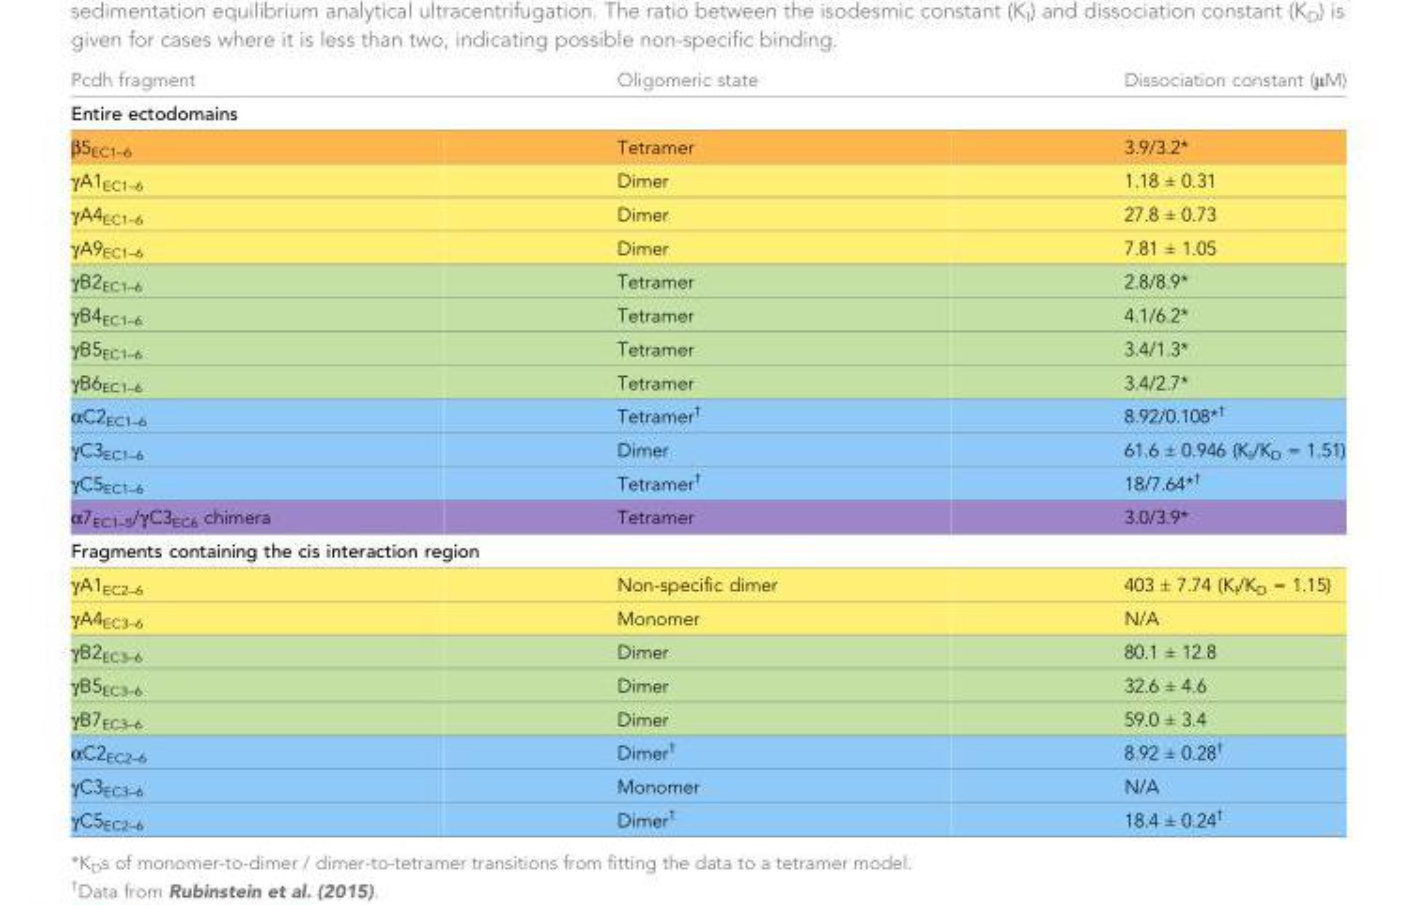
<table><thead><tr><td>Pcdh fragment</td><td>Oligomeric state</td><td>Dissociation constant (μM)</td></tr></thead><tbody><tr><td colspan="3">Entire ectodomains</td></tr><tr><td>β5<sub>EC1–6</sub></td><td>Tetramer</td><td>3.9/3.2*</td></tr><tr><td>γA1<sub>EC1–6</sub></td><td>Dimer</td><td>1.18 ± 0.31</td></tr><tr><td>γA4<sub>EC1–6</sub></td><td>Dimer</td><td>27.8 ± 0.73</td></tr><tr><td>γA9<sub>EC1–6</sub></td><td>Dimer</td><td>7.81 ± 1.05</td></tr><tr><td>γB2<sub>EC1–6</sub></td><td>Tetramer</td><td>2.8/8.9*</td></tr><tr><td>γB4<sub>EC1–6</sub></td><td>Tetramer</td><td>4.1/6.2*</td></tr><tr><td>γB5<sub>EC1–6</sub></td><td>Tetramer</td><td>3.4/1.3*</td></tr><tr><td>γB6<sub>EC1–6</sub></td><td>Tetramer</td><td>3.4/2.7*</td></tr><tr><td>αC2<sub>EC1–6</sub></td><td>Tetramer<sup>†</sup></td><td>8.92/0.108*<sup>†</sup></td></tr><tr><td>γC3<sub>EC1–6</sub></td><td>Dimer</td><td>61.6 ± 0.946 (K<sub>I</sub>/K<sub>D</sub> = 1.51)</td></tr><tr><td>γC5<sub>EC1–6</sub></td><td>Tetramer<sup>†</sup></td><td>18/7.64*<sup>†</sup></td></tr><tr><td>α7<sub>EC1–5</sub>/γC3<sub>EC6</sub> chimera</td><td>Tetramer</td><td>3.0/3.9*</td></tr><tr><td colspan="3">Fragments containing the cis interaction region</td></tr><tr><td>γA1<sub>EC2–6</sub></td><td>Non-specific dimer</td><td>403 ± 7.74 (K<sub>I</sub>/K<sub>D</sub> = 1.15)</td></tr><tr><td>γA4<sub>EC3–6</sub></td><td>Monomer</td><td>N/A</td></tr><tr><td>γB2<sub>EC3–6</sub></td><td>Dimer</td><td>80.1 ± 12.8</td></tr><tr><td>γB5<sub>EC3–6</sub></td><td>Dimer</td><td>32.6 ± 4.6</td></tr><tr><td>γB7<sub>EC3–6</sub></td><td>Dimer</td><td>59.0 ± 3.4</td></tr><tr><td>αC2<sub>EC2–6</sub></td><td>Dimer<sup>†</sup></td><td>8.92 ± 0.28<sup>†</sup></td></tr><tr><td>γC3<sub>EC3–6</sub></td><td>Monomer</td><td>N/A</td></tr><tr><td>γC5<sub>EC2–6</sub></td><td>Dimer<sup>†</sup></td><td>18.4 ± 0.24<sup>†</sup></td></tr></tbody></table>